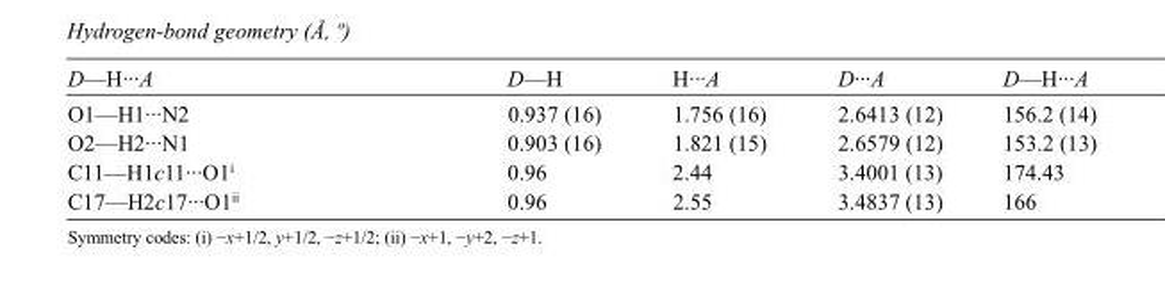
<table><tbody><tr><td>D—H···A</td><td>D—H</td><td>H···A</td><td>D···A</td><td>D—H···A</td></tr><tr><td>O1—H1···N2</td><td>0.937 (16)</td><td>1.756 (16)</td><td>2.6413 (12)</td><td>156.2 (14)</td></tr><tr><td>O2—H2···N1</td><td>0.903 (16)</td><td>1.821 (15)</td><td>2.6579 (12)</td><td>153.2 (13)</td></tr><tr><td>C11—H1c11···O1<sup>i</sup></td><td>0.96</td><td>2.44</td><td>3.4001 (13)</td><td>174.43</td></tr><tr><td>C17—H2c17···O1<sup>ii</sup></td><td>0.96</td><td>2.55</td><td>3.4837 (13)</td><td>166</td></tr></tbody></table>